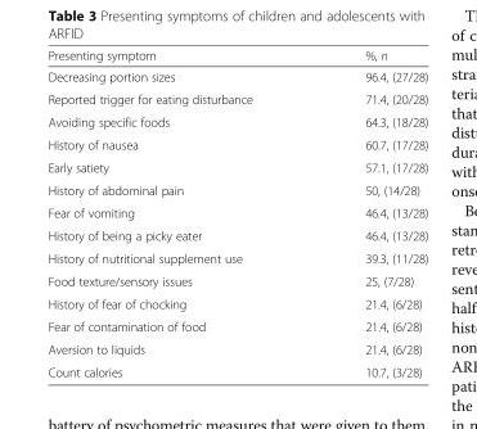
<table><thead><tr><td>Presenting symptom</td><td>%, n</td></tr></thead><tbody><tr><td>Decreasing portion sizes</td><td>96.4, (27/28)</td></tr><tr><td>Reported trigger for eating disturbance</td><td>71.4, (20/28)</td></tr><tr><td>Avoiding specific foods</td><td>64.3, (18/28)</td></tr><tr><td>History of nausea</td><td>60.7, (17/28)</td></tr><tr><td>Early satiety</td><td>57.1, (17/28)</td></tr><tr><td>History of abdominal pain</td><td>50, (14/28)</td></tr><tr><td>Fear of vomiting</td><td>46.4, (13/28)</td></tr><tr><td>History of being a picky eater</td><td>46.4, (13/28)</td></tr><tr><td>History of nutritional supplement use</td><td>39.3, (11/28)</td></tr><tr><td>Food texture/sensory issues</td><td>25, (7/28)</td></tr><tr><td>History of fear of chocking</td><td>21.4, (6/28)</td></tr><tr><td>Fear of contamination of food</td><td>21.4, (6/28)</td></tr><tr><td>Aversion to liquids</td><td>21.4, (6/28)</td></tr><tr><td>Count calories</td><td>10.7, (3/28)</td></tr></tbody></table>